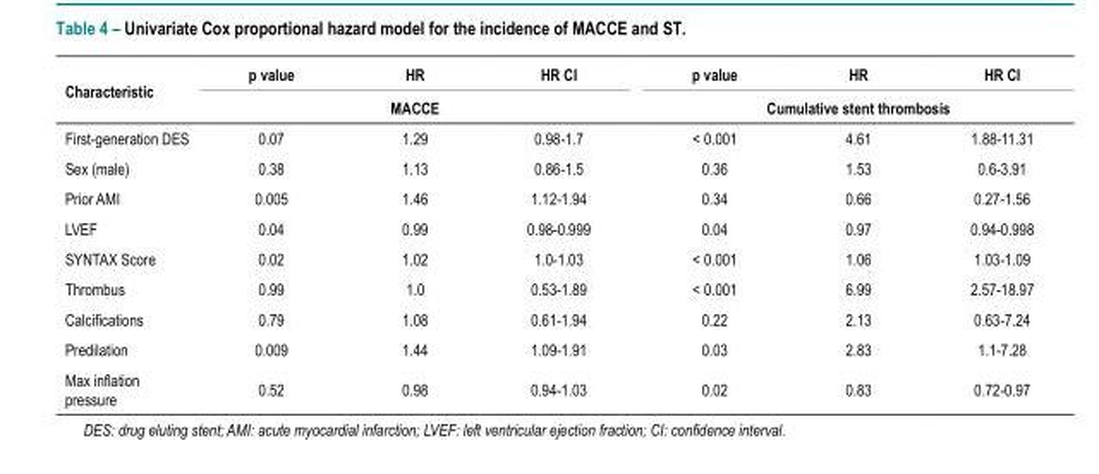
<table><thead><tr><td rowspan="2">Characteristic</td><td>p value</td><td>HR</td><td>HR CI</td><td>p value</td><td>HR</td><td>HR CI</td></tr><tr><td colspan="3">MACCE</td><td colspan="3">Cumulative stent thrombosis</td></tr></thead><tbody><tr><td>First-generation DES</td><td>0.07</td><td>1.29</td><td>0.98-1.7</td><td>&lt; 0.001</td><td>4.61</td><td>1.88-11.31</td></tr><tr><td>Sex (male)</td><td>0.38</td><td>1.13</td><td>0.86-1.5</td><td>0.36</td><td>1.53</td><td>0.6-3.91</td></tr><tr><td>Prior AMI</td><td>0.005</td><td>1.46</td><td>1.12-1.94</td><td>0.34</td><td>0.66</td><td>0.27-1.56</td></tr><tr><td>LVEF</td><td>0.04</td><td>0.99</td><td>0.98-0.999</td><td>0.04</td><td>0.97</td><td>0.94-0.998</td></tr><tr><td>SYNTAX Score</td><td>0.02</td><td>1.02</td><td>1.0-1.03</td><td>&lt; 0.001</td><td>1.06</td><td>1.03-1.09</td></tr><tr><td>Thrombus</td><td>0.99</td><td>1.0</td><td>0.53-1.89</td><td>&lt; 0.001</td><td>6.99</td><td>2.57-18.97</td></tr><tr><td>Calcifications</td><td>0.79</td><td>1.08</td><td>0.61-1.94</td><td>0.22</td><td>2.13</td><td>0.63-7.24</td></tr><tr><td>Predilation</td><td>0.009</td><td>1.44</td><td>1.09-1.91</td><td>0.03</td><td>2.83</td><td>1.1-7.28</td></tr><tr><td>Max inflation pressure</td><td>0.52</td><td>0.98</td><td>0.94-1.03</td><td>0.02</td><td>0.83</td><td>0.72-0.97</td></tr></tbody></table>